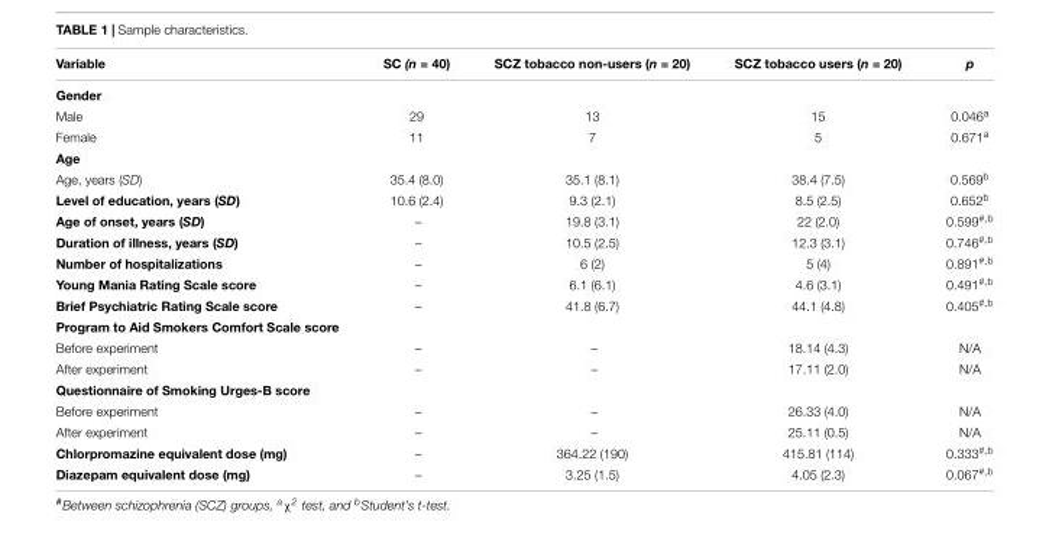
<table><thead><tr><td>Variable</td><td>SC (n = 40)</td><td>SCZ tobacco non-users (n = 20)</td><td>SCZ tobacco users (n = 20)</td><td>p</td></tr></thead><tbody><tr><td colspan="5">Gender</td></tr><tr><td>Male</td><td>29</td><td>13</td><td>15</td><td>0.046<sup>a</sup></td></tr><tr><td>Female</td><td>11</td><td>7</td><td>5</td><td>0.671<sup>a</sup></td></tr><tr><td colspan="5">Age</td></tr><tr><td>Age, years (SD)</td><td>35.4 (8.0)</td><td>35.1 (8.1)</td><td>38.4 (7.5)</td><td>0.569<sup>b</sup></td></tr><tr><td>Level of education, years (SD)</td><td>10.6 (2.4)</td><td>9.3 (2.1)</td><td>8.5 (2.5)</td><td>0.652<sup>b</sup></td></tr><tr><td>Age of onset, years (SD)</td><td>–</td><td>19.8 (3.1)</td><td>22 (2.0)</td><td>0.599<sup>#,b</sup></td></tr><tr><td>Duration of illness, years (SD)</td><td>–</td><td>10.5 (2.5)</td><td>12.3 (3.1)</td><td>0.746<sup>#,b</sup></td></tr><tr><td>Number of hospitalizations</td><td>–</td><td>6 (2)</td><td>5 (4)</td><td>0.891<sup>#,b</sup></td></tr><tr><td>Young Mania Rating Scale score</td><td>–</td><td>6.1 (6.1)</td><td>4.6 (3.1)</td><td>0.491<sup>#,b</sup></td></tr><tr><td>Brief Psychiatric Rating Scale score</td><td>–</td><td>41.8 (6.7)</td><td>44.1 (4.8)</td><td>0.405<sup>#,b</sup></td></tr><tr><td colspan="5">Program to Aid Smokers Comfort Scale score</td></tr><tr><td>Before experiment</td><td>–</td><td>–</td><td>18.14 (4.3)</td><td>N/A</td></tr><tr><td>After experiment</td><td>–</td><td>–</td><td>17.11 (2.0)</td><td>N/A</td></tr><tr><td colspan="5">Questionnaire of Smoking Urges-B score</td></tr><tr><td>Before experiment</td><td>–</td><td>–</td><td>26.33 (4.0)</td><td>N/A</td></tr><tr><td>After experiment</td><td>–</td><td>–</td><td>25.11 (0.5)</td><td>N/A</td></tr><tr><td>Chlorpromazine equivalent dose (mg)</td><td>–</td><td>364.22 (190)</td><td>415.81 (114)</td><td>0.333<sup>#,b</sup></td></tr><tr><td>Diazepam equivalent dose (mg)</td><td>–</td><td>3.25 (1.5)</td><td>4.05 (2.3)</td><td>0.067<sup>#,b</sup></td></tr></tbody></table>